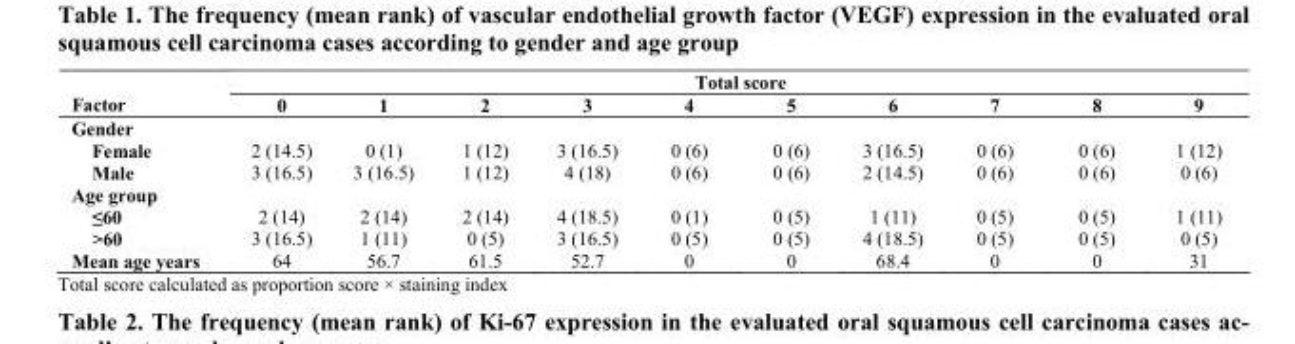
<table><thead><tr><td rowspan="2">Factor</td><td colspan="10">Total score</td></tr><tr><td>0</td><td>1</td><td>2</td><td>3</td><td>4</td><td>5</td><td>6</td><td>7</td><td>8</td><td>9</td></tr></thead><tbody><tr><td colspan="11">Gender</td></tr><tr><td>Female</td><td>2 (14.5)</td><td>0 (1)</td><td>1 (12)</td><td>3 (16.5)</td><td>0 (6)</td><td>0 (6)</td><td>3 (16.5)</td><td>0 (6)</td><td>0 (6)</td><td>1 (12)</td></tr><tr><td>Male</td><td>3 (16.5)</td><td>3 (16.5)</td><td>1 (12)</td><td>4 (18)</td><td>0 (6)</td><td>0 (6)</td><td>2 (14.5)</td><td>0 (6)</td><td>0 (6)</td><td>0 (6)</td></tr><tr><td colspan="11">Age group</td></tr><tr><td>≤60</td><td>2 (14)</td><td>2 (14)</td><td>2 (14)</td><td>4 (18.5)</td><td>0 (1)</td><td>0 (5)</td><td>1 (11)</td><td>0 (5)</td><td>0 (5)</td><td>1 (11)</td></tr><tr><td>&gt;60</td><td>3 (16.5)</td><td>1 (11)</td><td>0 (5)</td><td>3 (16.5)</td><td>0 (5)</td><td>0 (5)</td><td>4 (18.5)</td><td>0 (5)</td><td>0 (5)</td><td>0 (5)</td></tr><tr><td>Mean age years</td><td>64</td><td>56.7</td><td>61.5</td><td>52.7</td><td>0</td><td>0</td><td>68.4</td><td>0</td><td>0</td><td>31</td></tr></tbody></table>